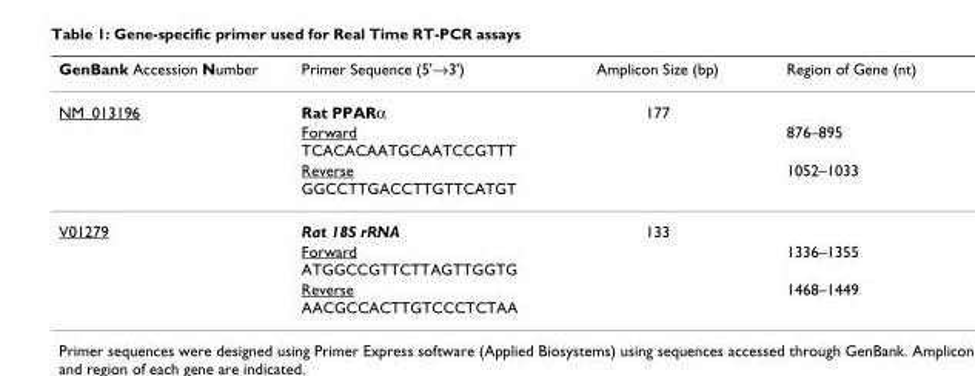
<table><thead><tr><td>GenBank Accession Number</td><td>Primer Sequence (5&#x27;→3&#x27;)</td><td>Amplicon Size (bp)</td><td>Region of Gene (nt)</td></tr></thead><tbody><tr><td rowspan="3">NM_013196</td><td>Rat PPARα</td><td>177</td><td></td></tr><tr><td>Forward TCACACAATGCAATCCGTTT</td><td></td><td>876–895</td></tr><tr><td>Reverse GGCCTTGACCTTGTTCATGT</td><td></td><td>1052–1033</td></tr><tr><td rowspan="3">V01279</td><td>Rat 18S rRNA</td><td>133</td><td></td></tr><tr><td>Forward ATGGCCGTTCTTAGTTGGTG</td><td></td><td>1336–1355</td></tr><tr><td>Reverse AACGCCACTTGTCCCTCTAA</td><td></td><td>1468–1449</td></tr></tbody></table>